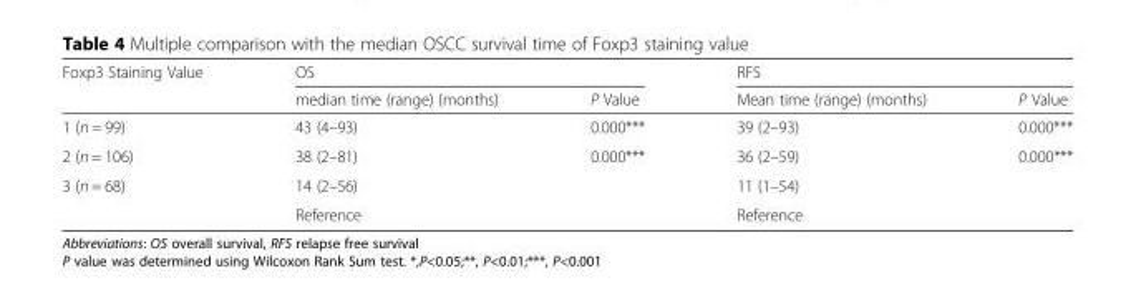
<table><thead><tr><td rowspan="2">Foxp3 Staining Value</td><td colspan="2">OS</td><td colspan="2">RFS</td></tr><tr><td>median time (range) (months)</td><td>P Value</td><td>Mean time (range) (months)</td><td>P Value</td></tr></thead><tbody><tr><td>1 (n = 99)</td><td>43 (4–93)</td><td>0.000***</td><td>39 (2–93)</td><td>0.000***</td></tr><tr><td>2 (n = 106)</td><td>38 (2–81)</td><td>0.000***</td><td>36 (2–59)</td><td>0.000***</td></tr><tr><td rowspan="2">3 (n = 68)</td><td>14 (2–56)</td><td rowspan="2"></td><td>11 (1–54)</td><td rowspan="2"></td></tr><tr><td>Reference</td><td>Reference</td></tr></tbody></table>